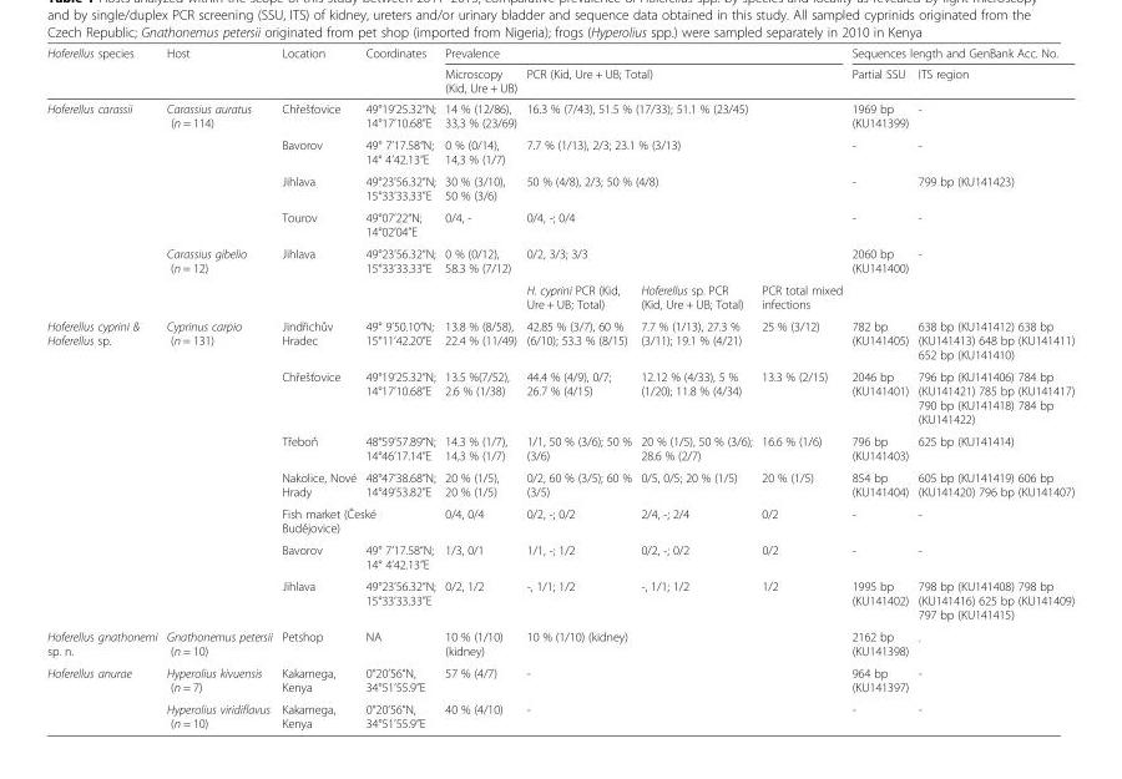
<table><thead><tr><td rowspan="2">Hoferellus species</td><td rowspan="2">Host</td><td rowspan="2">Location</td><td rowspan="2">Coordinates</td><td colspan="4">Prevalence</td><td colspan="2">Sequences length and GenBank Acc. No.</td></tr><tr><td>Microscopy (Kid, Ure + UB)</td><td colspan="3">PCR (Kid, Ure + UB; Total)</td><td>Partial SSU</td><td>ITS region</td></tr></thead><tbody><tr><td rowspan="5">Hoferellus carassii</td><td rowspan="4">Carassius auratus (n = 114)</td><td>Chřešťovice</td><td>49°19’25.32“N; 14°17’10.68”E</td><td>14 % (12/86), 33,3 % (23/69)</td><td colspan="3">16.3 % (7/43), 51.5 % (17/33); 51.1 % (23/45)</td><td>1969 bp (KU141399)</td><td>-</td></tr><tr><td>Bavorov</td><td>49° 7’17.58“N; 14° 4’42.13”E</td><td>0 % (0/14), 14,3 % (1/7)</td><td colspan="3">7.7 % (1/13), 2/3; 23.1 % (3/13)</td><td>-</td><td>-</td></tr><tr><td>Jihlava</td><td>49°23’56.32“N; 15°33’33.33”E</td><td>30 % (3/10), 50 % (3/6)</td><td colspan="3">50 % (4/8), 2/3; 50 % (4/8)</td><td>-</td><td>799 bp (KU141423)</td></tr><tr><td>Tourov</td><td>49°07’22“N; 14°02’04”E</td><td>0/4, -</td><td colspan="3">0/4, -; 0/4</td><td>-</td><td>-</td></tr><tr><td>Carassius gibelio (n = 12)</td><td>Jihlava</td><td>49°23’56.32“N; 15°33’33.33”E</td><td>0 % (0/12), 58.3 % (7/12)</td><td colspan="3">0/2, 3/3; 3/3</td><td>2060 bp (KU141400)</td><td>-</td></tr><tr><td colspan="5"></td><td>H. cyprini PCR (Kid, Ure + UB; Total)</td><td>Hoferellus sp. PCR (Kid, Ure + UB; Total)</td><td>PCR total mixed infections</td><td colspan="2"></td></tr><tr><td rowspan="7">Hoferellus cyprini &amp; Hoferellus sp.</td><td rowspan="7">Cyprinus carpio (n = 131)</td><td>Jindřichův Hradec</td><td>49° 9’50.10“N; 15°11’42.20”E</td><td>13.8 % (8/58), 22.4 % (11/49)</td><td>42.85 % (3/7), 60 % (6/10); 53.3 % (8/15)</td><td>7.7 % (1/13), 27.3 % (3/11); 19.1 % (4/21)</td><td>25 % (3/12)</td><td>782 bp (KU141405)</td><td>638 bp (KU141412) 638 bp (KU141413) 648 bp (KU141411) 652 bp (KU141410)</td></tr><tr><td>Chřešťovice</td><td>49°19’25.32“N; 14°17’10.68”E</td><td>13.5 %(7/52), 2.6 % (1/38)</td><td>44.4 % (4/9), 0/7; 26.7 % (4/15)</td><td>12.12 % (4/33), 5 % (1/20); 11.8 % (4/34)</td><td>13.3 % (2/15)</td><td>2046 bp (KU141401)</td><td>796 bp (KU141406) 784 bp (KU141421) 785 bp (KU141417) 790 bp (KU141418) 784 bp (KU141422)</td></tr><tr><td>Třeboň</td><td>48°59’57.89“N; 14°46’17.14”E</td><td>14.3 % (1/7), 14,3 % (1/7)</td><td>1/1, 50 % (3/6); 50 % (3/6)</td><td>20 % (1/5), 50 % (3/6); 28.6 % (2/7)</td><td>16.6 % (1/6)</td><td>796 bp (KU141403)</td><td>625 bp (KU141414)</td></tr><tr><td>Nakolice, Nové Hrady</td><td>48°47’38.68“N; 14°49’53.82”E</td><td>20 % (1/5), 20 % (1/5)</td><td>0/2, 60 % (3/5); 60 % (3/5)</td><td>0/5, 0/5; 20 % (1/5)</td><td>20 % (1/5)</td><td>854 bp (KU141404)</td><td>605 bp (KU141419) 606 bp (KU141420) 796 bp (KU141407)</td></tr><tr><td colspan="2">Fish market (České Budějovice)</td><td>0/4, 0/4</td><td>0/2, -; 0/2</td><td>2/4, -; 2/4</td><td>0/2</td><td>-</td><td>-</td></tr><tr><td>Bavorov</td><td>49° 7’17.58“N; 14° 4’42.13”E</td><td>1/3, 0/1</td><td>1/1, -; 1/2</td><td>0/2, -; 0/2</td><td>0/2</td><td>-</td><td>-</td></tr><tr><td>Jihlava</td><td>49°23’56.32“N; 15°33’33.33”E</td><td>0/2, 1/2</td><td>-, 1/1; 1/2</td><td>-, 1/1; 1/2</td><td>1/2</td><td>1995 bp (KU141402)</td><td>798 bp (KU141408) 798 bp (KU141416) 625 bp (KU141409) 797 bp (KU141415)</td></tr><tr><td>Hoferellus gnathonemi sp. n.</td><td>Gnathonemus petersii (n = 10)</td><td>Petshop</td><td>NA</td><td>10 % (1/10) (kidney)</td><td colspan="3">10 % (1/10) (kidney)</td><td>2162 bp (KU141398)</td><td>.</td></tr><tr><td rowspan="2">Hoferellus anurae</td><td>Hyperolius kivuensis (n = 7)</td><td>Kakamega, Kenya</td><td>0°20’56“N, 34°51’55.9”E</td><td>57 % (4/7)</td><td colspan="3">-</td><td>964 bp (KU141397)</td><td>-</td></tr><tr><td>Hyperolius viridiflavus (n = 10)</td><td>Kakamega, Kenya</td><td>0°20’56“N, 34°51’55.9”E</td><td>40 % (4/10)</td><td colspan="3">-</td><td>-</td><td>-</td></tr></tbody></table>